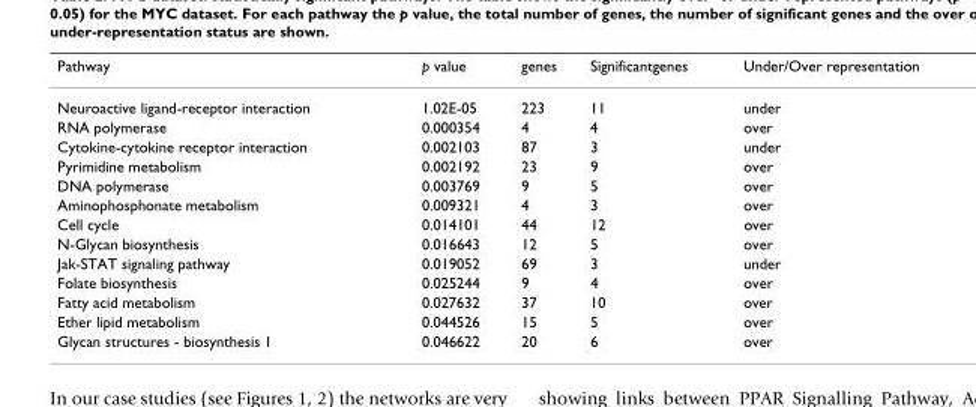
<table><thead><tr><td>Pathway</td><td>p value</td><td>genes</td><td>Significantgenes</td><td>Under/Over representation</td></tr></thead><tbody><tr><td>Neuroactive ligand-receptor interaction</td><td>1.02E-05</td><td>223</td><td>11</td><td>under</td></tr><tr><td>RNA polymerase</td><td>0.000354</td><td>4</td><td>4</td><td>over</td></tr><tr><td>Cytokine-cytokine receptor interaction</td><td>0.002103</td><td>87</td><td>3</td><td>under</td></tr><tr><td>Pyrimidine metabolism</td><td>0.002192</td><td>23</td><td>9</td><td>over</td></tr><tr><td>DNA polymerase</td><td>0.003769</td><td>9</td><td>5</td><td>over</td></tr><tr><td>Aminophosphonate metabolism</td><td>0.009321</td><td>4</td><td>3</td><td>over</td></tr><tr><td>Cell cycle</td><td>0.014101</td><td>44</td><td>12</td><td>over</td></tr><tr><td>N-Glycan biosynthesis</td><td>0.016643</td><td>12</td><td>5</td><td>over</td></tr><tr><td>Jak-STAT signaling pathway</td><td>0.019052</td><td>69</td><td>3</td><td>under</td></tr><tr><td>Folate biosynthesis</td><td>0.025244</td><td>9</td><td>4</td><td>over</td></tr><tr><td>Fatty acid metabolism</td><td>0.027632</td><td>37</td><td>10</td><td>over</td></tr><tr><td>Ether lipid metabolism</td><td>0.044526</td><td>15</td><td>5</td><td>over</td></tr><tr><td>Glycan structures - biosynthesis 1</td><td>0.046622</td><td>20</td><td>6</td><td>over</td></tr></tbody></table>